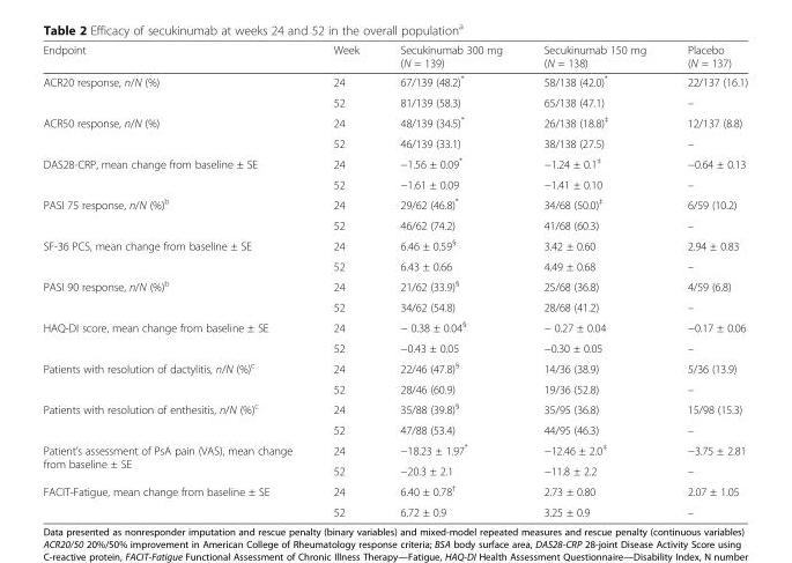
<table><thead><tr><td>Endpoint</td><td>Week</td><td>Secukinumab 300 mg (N = 139)</td><td>Secukinumab 150 mg (N = 138)</td><td>Placebo (N = 137)</td></tr></thead><tbody><tr><td rowspan="2">ACR20 response, n/N (%)</td><td>24</td><td>67/139 (48.2)*</td><td>58/138 (42.0)*</td><td>22/137 (16.1)</td></tr><tr><td>52</td><td>81/139 (58.3)</td><td>65/138 (47.1)</td><td>–</td></tr><tr><td rowspan="2">ACR50 response, n/N (%)</td><td>24</td><td>48/139 (34.5)*</td><td>26/138 (18.8)<sup>‡</sup></td><td>12/137 (8.8)</td></tr><tr><td>52</td><td>46/139 (33.1)</td><td>38/138 (27.5)</td><td>–</td></tr><tr><td rowspan="2">DAS28-CRP, mean change from baseline ± SE</td><td>24</td><td>−1.56 ± 0.09*</td><td>−1.24 ± 0.1<sup>‡</sup></td><td>−0.64 ± 0.13</td></tr><tr><td>52</td><td>−1.61 ± 0.09</td><td>−1.41 ± 0.10</td><td>–</td></tr><tr><td rowspan="2">PASI 75 response, n/N (%)<sup>b</sup></td><td>24</td><td>29/62 (46.8)*</td><td>34/68 (50.0)<sup>‡</sup></td><td>6/59 (10.2)</td></tr><tr><td>52</td><td>46/62 (74.2)</td><td>41/68 (60.3)</td><td>–</td></tr><tr><td rowspan="2">SF-36 PCS, mean change from baseline ± SE</td><td>24</td><td>6.46 ± 0.59<sup>§</sup></td><td>3.42 ± 0.60</td><td>2.94 ± 0.83</td></tr><tr><td>52</td><td>6.43 ± 0.66</td><td>4.49 ± 0.68</td><td>–</td></tr><tr><td rowspan="2">PASI 90 response, n/N (%)<sup>b</sup></td><td>24</td><td>21/62 (33.9)<sup>§</sup></td><td>25/68 (36.8)</td><td>4/59 (6.8)</td></tr><tr><td>52</td><td>34/62 (54.8)</td><td>28/68 (41.2)</td><td>–</td></tr><tr><td rowspan="2">HAQ-DI score, mean change from baseline ± SE</td><td>24</td><td>− 0.38 ± 0.04<sup>§</sup></td><td>− 0.27 ± 0.04</td><td>−0.17 ± 0.06</td></tr><tr><td>52</td><td>−0.43 ± 0.05</td><td>−0.30 ± 0.05</td><td>–</td></tr><tr><td rowspan="2">Patients with resolution of dactylitis, n/N (%)<sup>c</sup></td><td>24</td><td>22/46 (47.8)<sup>§</sup></td><td>14/36 (38.9)</td><td>5/36 (13.9)</td></tr><tr><td>52</td><td>28/46 (60.9)</td><td>19/36 (52.8)</td><td>–</td></tr><tr><td rowspan="2">Patients with resolution of enthesitis, n/N (%)<sup>c</sup></td><td>24</td><td>35/88 (39.8)<sup>§</sup></td><td>35/95 (36.8)</td><td>15/98 (15.3)</td></tr><tr><td>52</td><td>47/88 (53.4)</td><td>44/95 (46.3)</td><td>–</td></tr><tr><td rowspan="2">Patient’s assessment of PsA pain (VAS), mean change from baseline ± SE</td><td>24</td><td>−18.23 ± 1.97*</td><td>−12.46 ± 2.0<sup>‡</sup></td><td>−3.75 ± 2.81</td></tr><tr><td>52</td><td>−20.3 ± 2.1</td><td>−11.8 ± 2.2</td><td>–</td></tr><tr><td rowspan="2">FACIT-Fatigue, mean change from baseline ± SE</td><td>24</td><td>6.40 ± 0.78<sup>†</sup></td><td>2.73 ± 0.80</td><td>2.07 ± 1.05</td></tr><tr><td>52</td><td>6.72 ± 0.9</td><td>3.25 ± 0.9</td><td>–</td></tr></tbody></table>